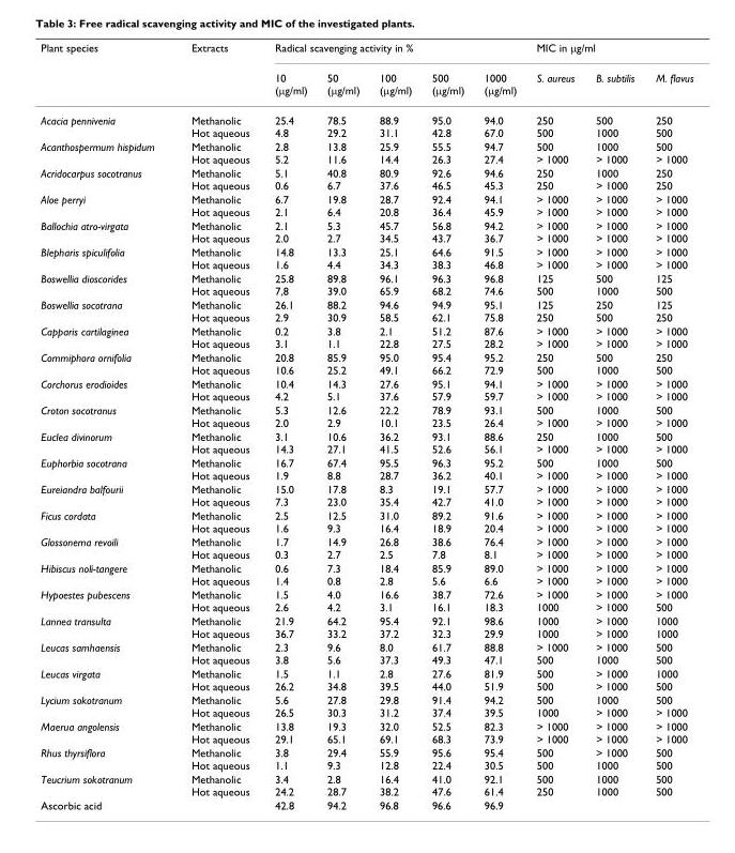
<table><thead><tr><td rowspan="2">Plant species</td><td rowspan="2">Extracts</td><td colspan="5">Radical scavenging activity in %</td><td colspan="3">MIC in μg/ml</td></tr><tr><td>10 (μg/ml)</td><td>50 (μg/ml)</td><td>100 (μg/ml)</td><td>500 (μg/ml)</td><td>1000 (μg/ml)</td><td>S. aureus</td><td>B. subtilis</td><td>M. flavus</td></tr></thead><tbody><tr><td>Acacia pennivenia</td><td>Methanolic Hot aqueous</td><td>25.4 4.8</td><td>78.5 29.2</td><td>88.9 31.1</td><td>95.0 42.8</td><td>94.0 67.0</td><td>250 500</td><td>500 1000</td><td>250 500</td></tr><tr><td>Acanthospermum hispidum</td><td>Methanolic Hot aqueous</td><td>2.8 5.2</td><td>13.8 11.6</td><td>25.9 14.4</td><td>55.5 26.3</td><td>94.7 27.4</td><td>500 &gt; 1000</td><td>1000 &gt; 1000</td><td>500 &gt; 1000</td></tr><tr><td>Acridocarpus socotranus</td><td>Methanolic Hot aqueous</td><td>5.1 0.6</td><td>40.8 6.7</td><td>80.9 37.6</td><td>92.6 46.5</td><td>94.6 45.3</td><td>250 250</td><td>1000 &gt; 1000</td><td>250 250</td></tr><tr><td>Aloe perryi</td><td>Methanolic Hot aqueous</td><td>6.7 2.1</td><td>19.8 6.4</td><td>28.7 20.8</td><td>92.4 36.4</td><td>94.1 45.9</td><td>&gt; 1000 &gt; 1000</td><td>&gt; 1000 &gt; 1000</td><td>&gt; 1000 &gt; 1000</td></tr><tr><td>Ballochia atro-virgata</td><td>Methanolic Hot aqueous</td><td>2.1 2.0</td><td>5.3 2.7</td><td>45.7 34.5</td><td>56.8 43.7</td><td>94.2 36.7</td><td>&gt; 1000 &gt; 1000</td><td>&gt; 1000 &gt; 1000</td><td>&gt; 1000 &gt; 1000</td></tr><tr><td>Blepharis spiculifolia</td><td>Methanolic Hot aqueous</td><td>14.8 1.6</td><td>13.3 4.4</td><td>25.1 34.3</td><td>64.6 38.3</td><td>91.5 46.8</td><td>&gt; 1000 &gt; 1000</td><td>&gt; 1000 &gt; 1000</td><td>&gt; 1000 &gt; 1000</td></tr><tr><td>Boswellia dioscorides</td><td>Methanolic Hot aqueous</td><td>25.8 7,8</td><td>89.8 39.0</td><td>96.1 65.9</td><td>96.3 68.2</td><td>96.8 74.6</td><td>125 500</td><td>500 1000</td><td>125 500</td></tr><tr><td>Boswellia socotrana</td><td>Methanolic Hot aqueous</td><td>26.1 2.9</td><td>88.2 30.9</td><td>94.6 58.5</td><td>94.9 62.1</td><td>95.1 75.8</td><td>125 250</td><td>250 500</td><td>125 250</td></tr><tr><td>Capparis cartilaginea</td><td>Methanolic Hot aqueous</td><td>0.2 3.1</td><td>3.8 1.1</td><td>2.1 22.8</td><td>51.2 27.5</td><td>87.6 28.2</td><td>&gt; 1000 &gt; 1000</td><td>&gt; 1000 &gt; 1000</td><td>&gt; 1000 &gt; 1000</td></tr><tr><td>Commiphora ornifolia</td><td>Methanolic Hot aqueous</td><td>20.8 10.6</td><td>85.9 25.2</td><td>95.0 49.1</td><td>95.4 66.2</td><td>95.2 72.9</td><td>250 500</td><td>500 1000</td><td>250 500</td></tr><tr><td>Corchorus erodioides</td><td>Methanolic Hot aqueous</td><td>10.4 4.2</td><td>14.3 5.1</td><td>27.6 37.6</td><td>95.1 57.9</td><td>94.1 59.7</td><td>&gt; 1000 &gt; 1000</td><td>&gt; 1000 &gt; 1000</td><td>&gt; 1000 &gt; 1000</td></tr><tr><td>Croton socotranus</td><td>Methanolic Hot aqueous</td><td>5.3 2.0</td><td>12.6 2.9</td><td>22.2 10.1</td><td>78.9 23.5</td><td>93.1 26.4</td><td>500 &gt; 1000</td><td>1000 &gt; 1000</td><td>500 &gt; 1000</td></tr><tr><td>Euclea divinorum</td><td>Methanolic Hot aqueous</td><td>3.1 14.3</td><td>10.6 27.1</td><td>36.2 41.5</td><td>93.1 52.6</td><td>88.6 56.1</td><td>250 &gt; 1000</td><td>1000 &gt; 1000</td><td>500 &gt; 1000</td></tr><tr><td>Euphorbia socotrana</td><td>Methanolic Hot aqueous</td><td>16.7 1.9</td><td>67.4 8.8</td><td>95.5 28.7</td><td>96.3 36.2</td><td>95.2 40.1</td><td>500 &gt; 1000</td><td>1000 &gt; 1000</td><td>500 &gt; 1000</td></tr><tr><td>Eureiandra balfourii</td><td>Methanolic Hot aqueous</td><td>15.0 7.3</td><td>17.8 23.0</td><td>8.3 35.4</td><td>19.1 42.7</td><td>57.7 41.0</td><td>&gt; 1000 &gt; 1000</td><td>&gt; 1000 &gt; 1000</td><td>&gt; 1000 &gt; 1000</td></tr><tr><td>Ficus cordata</td><td>Methanolic Hot aqueous</td><td>2.5 1.6</td><td>12.5 9.3</td><td>31.0 16.4</td><td>89.2 18.9</td><td>91.6 20.4</td><td>&gt; 1000 &gt; 1000</td><td>&gt; 1000 &gt; 1000</td><td>&gt; 1000 &gt; 1000</td></tr><tr><td>Glossonema revoili</td><td>Methanolic Hot aqueous</td><td>1.7 0.3</td><td>14.9 2.7</td><td>26.8 2.5</td><td>38.6 7.8</td><td>76.4 8.1</td><td>&gt; 1000 &gt; 1000</td><td>&gt; 1000 &gt; 1000</td><td>&gt; 1000 &gt; 1000</td></tr><tr><td>Hibiscus noli-tangere</td><td>Methanolic Hot aqueous</td><td>0.6 1.4</td><td>7.3 0.8</td><td>18.4 2.8</td><td>85.9 5.6</td><td>89.0 6.6</td><td>&gt; 1000 &gt; 1000</td><td>&gt; 1000 &gt; 1000</td><td>&gt; 1000 &gt; 1000</td></tr><tr><td>Hypoestes pubescens</td><td>Methanolic Hot aqueous</td><td>1.5 2.6</td><td>4.0 4.2</td><td>16.6 3.1</td><td>38.7 16.1</td><td>72.6 18.3</td><td>&gt; 1000 1000</td><td>&gt; 1000 &gt; 1000</td><td>&gt; 1000 500</td></tr><tr><td>Lannea transulta</td><td>Methanolic Hot aqueous</td><td>21.9 36.7</td><td>64.2 33.2</td><td>95.4 37.2</td><td>92.1 32.3</td><td>98.6 29.9</td><td>1000 1000</td><td>&gt; 1000 &gt; 1000</td><td>1000 1000</td></tr><tr><td>Leucas samhaensis</td><td>Methanolic Hot aqueous</td><td>2.3 3.8</td><td>9.6 5.6</td><td>8.0 37.3</td><td>61.7 49.3</td><td>88.8 47.1</td><td>&gt; 1000 500</td><td>&gt; 1000 1000</td><td>500 500</td></tr><tr><td>Leucas virgata</td><td>Methanolic Hot aqueous</td><td>1.5 26.2</td><td>1.1 34.8</td><td>2.8 39.5</td><td>27.6 44.0</td><td>81.9 51.9</td><td>500 500</td><td>&gt; 1000 &gt; 1000</td><td>1000 500</td></tr><tr><td>Lycium sokotranum</td><td>Methanolic Hot aqueous</td><td>5.6 26.5</td><td>27.8 30.3</td><td>29.8 31.2</td><td>91.4 37.4</td><td>94.2 39.5</td><td>500 1000</td><td>1000 &gt; 1000</td><td>500 &gt; 1000</td></tr><tr><td>Maerua angolensis</td><td>Methanolic Hot aqueous</td><td>13.8 29.1</td><td>19.3 65.1</td><td>32.0 69.1</td><td>52.5 68.3</td><td>82.3 73.9</td><td>&gt; 1000 &gt; 1000</td><td>&gt; 1000 &gt; 1000</td><td>&gt; 1000 &gt; 1000</td></tr><tr><td>Rhus thyrsiflora</td><td>Methanolic Hot aqueous</td><td>3.8 1.1</td><td>29.4 9.3</td><td>55.9 12.8</td><td>95.6 22.4</td><td>95.4 30.5</td><td>500 500</td><td>&gt; 1000 1000</td><td>500 500</td></tr><tr><td>Teucrium sokotranum</td><td>Methanolic Hot aqueous</td><td>3.4 24.2</td><td>2.8 28.7</td><td>16.4 38.2</td><td>41.0 47.6</td><td>92.1 61.4</td><td>500 250</td><td>1000 1000</td><td>500 500</td></tr><tr><td>Ascorbic acid</td><td></td><td>42.8</td><td>94.2</td><td>96.8</td><td>96.6</td><td>96.9</td><td></td><td></td><td></td></tr></tbody></table>